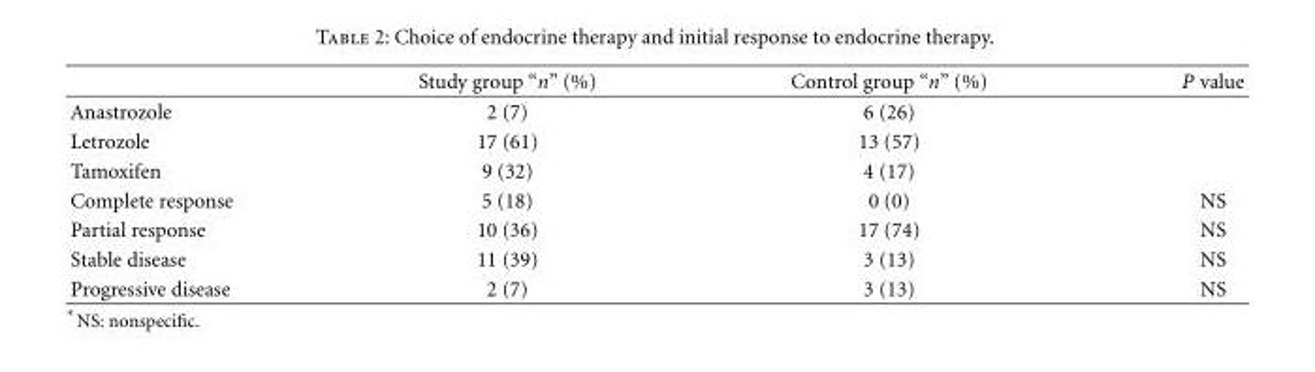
<table><thead><tr><td></td><td>Study group “n” (%)</td><td>Control group “n” (%)</td><td>P value</td></tr></thead><tbody><tr><td>Anastrozole</td><td>2 (7)</td><td>6 (26)</td><td></td></tr><tr><td>Letrozole</td><td>17 (61)</td><td>13 (57)</td><td></td></tr><tr><td>Tamoxifen</td><td>9 (32)</td><td>4 (17)</td><td></td></tr><tr><td>Complete response</td><td>5 (18)</td><td>0 (0)</td><td>NS</td></tr><tr><td>Partial response</td><td>10 (36)</td><td>17 (74)</td><td>NS</td></tr><tr><td>Stable disease</td><td>11 (39)</td><td>3 (13)</td><td>NS</td></tr><tr><td>Progressive disease</td><td>2 (7)</td><td>3 (13)</td><td>NS</td></tr></tbody></table>